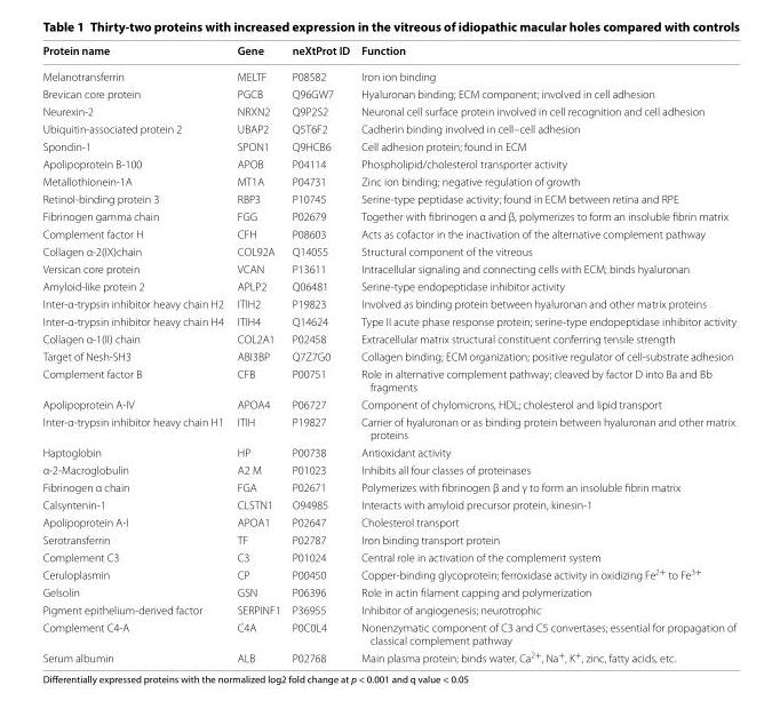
<table><thead><tr><td>Protein name</td><td>Gene</td><td>neXtProt ID</td><td>Function</td></tr></thead><tbody><tr><td>Melanotransferrin</td><td>MELTF</td><td>P08582</td><td>Iron ion binding</td></tr><tr><td>Brevican core protein</td><td>PGCB</td><td>Q96GW7</td><td>Hyaluronan binding; ECM component; involved in cell adhesion</td></tr><tr><td>Neurexin-2</td><td>NRXN2</td><td>Q9P2S2</td><td>Neuronal cell surface protein involved in cell recognition and cell adhesion</td></tr><tr><td>Ubiquitin-associated protein 2</td><td>UBAP2</td><td>Q5T6F2</td><td>Cadherin binding involved in cell–cell adhesion</td></tr><tr><td>Spondin-1</td><td>SPON1</td><td>Q9HCB6</td><td>Cell adhesion protein; found in ECM</td></tr><tr><td>Apolipoprotein B-100</td><td>APOB</td><td>P04114</td><td>Phospholipid/cholesterol transporter activity</td></tr><tr><td>Metallothionein-1A</td><td>MT1A</td><td>P04731</td><td>Zinc ion binding; negative regulation of growth</td></tr><tr><td>Retinol-binding protein 3</td><td>RBP3</td><td>P10745</td><td>Serine-type peptidase activity; found in ECM between retina and RPE</td></tr><tr><td>Fibrinogen gamma chain</td><td>FGG</td><td>P02679</td><td>Together with fibrinogen α and β, polymerizes to form an insoluble fibrin matrix</td></tr><tr><td>Complement factor H</td><td>CFH</td><td>P08603</td><td>Acts as cofactor in the inactivation of the alternative complement pathway</td></tr><tr><td>Collagen α-2(IX)chain</td><td>COL92A</td><td>Q14055</td><td>Structural component of the vitreous</td></tr><tr><td>Versican core protein</td><td>VCAN</td><td>P13611</td><td>Intracellular signaling and connecting cells with ECM; binds hyaluronan</td></tr><tr><td>Amyloid-like protein 2</td><td>APLP2</td><td>Q06481</td><td>Serine-type endopeptidase inhibitor activity</td></tr><tr><td>Inter-α-trypsin inhibitor heavy chain H2</td><td>ITIH2</td><td>P19823</td><td>Involved as binding protein between hyaluronan and other matrix proteins</td></tr><tr><td>Inter-α-trypsin inhibitor heavy chain H4</td><td>ITIH4</td><td>Q14624</td><td>Type II acute phase response protein; serine-type endopeptidase inhibitor activity</td></tr><tr><td>Collagen α-1(II) chain</td><td>COL2A1</td><td>P02458</td><td>Extracellular matrix structural constituent conferring tensile strength</td></tr><tr><td>Target of Nesh-SH3</td><td>ABI3BP</td><td>Q7Z7G0</td><td>Collagen binding; ECM organization; positive regulator of cell-substrate adhesion</td></tr><tr><td>Complement factor B</td><td>CFB</td><td>P00751</td><td>Role in alternative complement pathway; cleaved by factor D into Ba and Bb fragments</td></tr><tr><td>Apolipoprotein A-IV</td><td>APOA4</td><td>P06727</td><td>Component of chylomicrons, HDL; cholesterol and lipid transport</td></tr><tr><td>Inter-α-trypsin inhibitor heavy chain H1</td><td>ITIH</td><td>P19827</td><td>Carrier of hyaluronan or as binding protein between hyaluronan and other matrix proteins</td></tr><tr><td>Haptoglobin</td><td>HP</td><td>P00738</td><td>Antioxidant activity</td></tr><tr><td>α-2-Macroglobulin</td><td>A2 M</td><td>P01023</td><td>Inhibits all four classes of proteinases</td></tr><tr><td>Fibrinogen α chain</td><td>FGA</td><td>P02671</td><td>Polymerizes with fibrinogen β and γ to form an insoluble fibrin matrix</td></tr><tr><td>Calsyntenin-1</td><td>CLSTN1</td><td>O94985</td><td>Interacts with amyloid precursor protein, kinesin-1</td></tr><tr><td>Apolipoprotein A-I</td><td>APOA1</td><td>P02647</td><td>Cholesterol transport</td></tr><tr><td>Serotransferrin</td><td>TF</td><td>P02787</td><td>Iron binding transport protein</td></tr><tr><td>Complement C3</td><td>C3</td><td>P01024</td><td>Central role in activation of the complement system</td></tr><tr><td>Ceruloplasmin</td><td>CP</td><td>P00450</td><td>Copper-binding glycoprotein; ferroxidase activity in oxidizing Fe<sup>2+</sup> to Fe<sup>3+</sup></td></tr><tr><td>Gelsolin</td><td>GSN</td><td>P06396</td><td>Role in actin filament capping and polymerization</td></tr><tr><td>Pigment epithelium-derived factor</td><td>SERPINF1</td><td>P36955</td><td>Inhibitor of angiogenesis; neurotrophic</td></tr><tr><td>Complement C4-A</td><td>C4A</td><td>P0C0L4</td><td>Nonenzymatic component of C3 and C5 convertases; essential for propagation of classical complement pathway</td></tr><tr><td>Serum albumin</td><td>ALB</td><td>P02768</td><td>Main plasma protein; binds water, Ca<sup>2+</sup>, Na<sup>+</sup>, K<sup>+</sup>, zinc, fatty acids, etc.</td></tr></tbody></table>